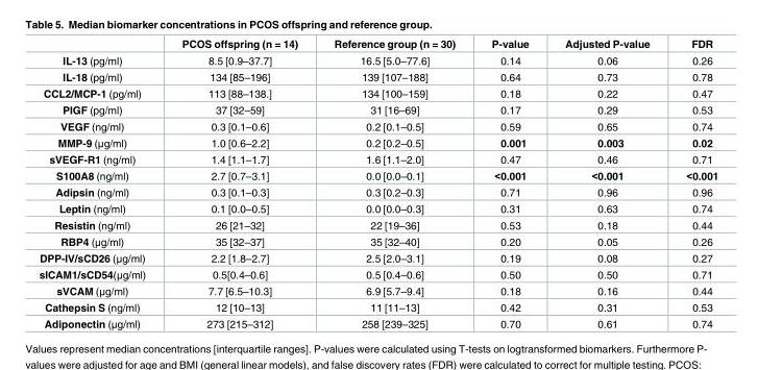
<table><thead><tr><td></td><td>PCOS offspring (n = 14)</td><td>Reference group (n = 30)</td><td>P-value</td><td>Adjusted P-value</td><td>FDR</td></tr></thead><tbody><tr><td>IL-13 (pg/ml)</td><td>8.5 [0.9–37.7]</td><td>16.5 [5.0–77.6]</td><td>0.14</td><td>0.06</td><td>0.26</td></tr><tr><td>IL-18 (pg/ml)</td><td>134 [85–196]</td><td>139 [107–188]</td><td>0.64</td><td>0.73</td><td>0.78</td></tr><tr><td>CCL2/MCP-1 (pg/ml)</td><td>113 [88–138.]</td><td>134 [100–159]</td><td>0.18</td><td>0.22</td><td>0.47</td></tr><tr><td>PIGF (pg/ml)</td><td>37 [32–59]</td><td>31 [16–69]</td><td>0.17</td><td>0.29</td><td>0.53</td></tr><tr><td>VEGF (ng/ml)</td><td>0.3 [0.1–0.6]</td><td>0.2 [0.1–0.5]</td><td>0.59</td><td>0.65</td><td>0.74</td></tr><tr><td>MMP-9 (μg/ml)</td><td>1.0 [0.6–2.2]</td><td>0.2 [0.2–0.5]</td><td>0.001</td><td>0.003</td><td>0.02</td></tr><tr><td>sVEGF-R1 (ng/ml)</td><td>1.4 [1.1–1.7]</td><td>1.6 [1.1–2.0]</td><td>0.47</td><td>0.46</td><td>0.71</td></tr><tr><td>S100A8 (ng/ml)</td><td>2.7 [0.7–3.1]</td><td>0.0 [0.0–0.1]</td><td>&lt;0.001</td><td>&lt;0.001</td><td>&lt;0.001</td></tr><tr><td>Adipsin (ng/ml)</td><td>0.3 [0.1–0.3]</td><td>0.3 [0.2–0.3]</td><td>0.71</td><td>0.96</td><td>0.96</td></tr><tr><td>Leptin (ng/ml)</td><td>0.1 [0.0–0.5]</td><td>0.0 [0.0–0.3]</td><td>0.31</td><td>0.63</td><td>0.74</td></tr><tr><td>Resistin (ng/ml)</td><td>26 [21–32]</td><td>22 [19–36]</td><td>0.53</td><td>0.18</td><td>0.44</td></tr><tr><td>RBP4 (μg/ml)</td><td>35 [32–37]</td><td>35 [32–40]</td><td>0.20</td><td>0.05</td><td>0.26</td></tr><tr><td>DPP-IV/sCD26 (μg/ml)</td><td>2.2 [1.8–2.7]</td><td>2.5 [2.0–3.1]</td><td>0.19</td><td>0.08</td><td>0.27</td></tr><tr><td>sICAM1/sCD54(μg/ml)</td><td>0.5[0.4–0.6]</td><td>0.5 [0.4–0.6]</td><td>0.50</td><td>0.50</td><td>0.71</td></tr><tr><td>sVCAM (μg/ml)</td><td>7.7 [6.5–10.3]</td><td>6.9 [5.7–9.4]</td><td>0.18</td><td>0.16</td><td>0.44</td></tr><tr><td>Cathepsin S (ng/ml)</td><td>12 [10–13]</td><td>11 [11–13]</td><td>0.42</td><td>0.31</td><td>0.53</td></tr><tr><td>Adiponectin (μg/ml)</td><td>273 [215–312]</td><td>258 [239–325]</td><td>0.70</td><td>0.61</td><td>0.74</td></tr></tbody></table>